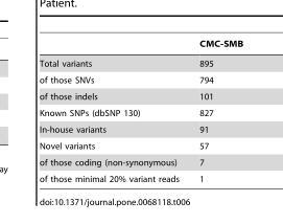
<table><thead><tr><td></td><td>CMC-SMB</td></tr></thead><tbody><tr><td>Total variants</td><td>895</td></tr><tr><td>of those SNVs</td><td>794</td></tr><tr><td>of those indels</td><td>101</td></tr><tr><td>Known SNPs (dbSNP 130)</td><td>827</td></tr><tr><td>In-house variants</td><td>91</td></tr><tr><td>Novel variants</td><td>57</td></tr><tr><td>of those coding (non-synonymous)</td><td>7</td></tr><tr><td>of those minimal 20% variant reads</td><td>1</td></tr></tbody></table>